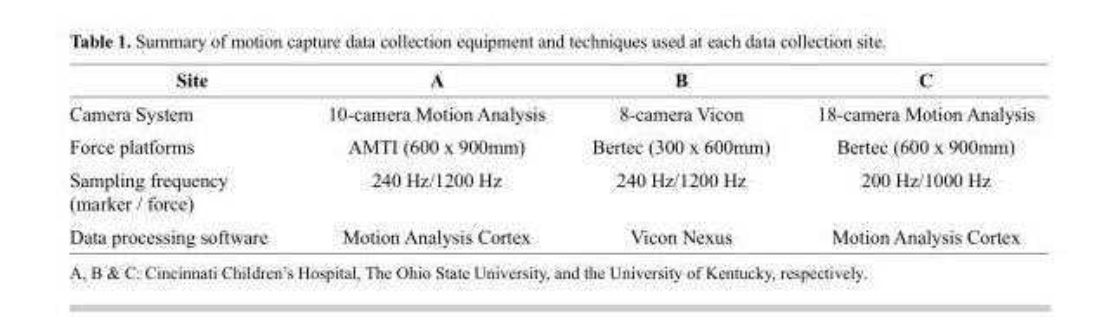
<table><thead><tr><td>Site</td><td>A</td><td>B</td><td>C</td></tr></thead><tbody><tr><td>Camera System</td><td>10-camera Motion Analysis</td><td>8-camera Vicon</td><td>18-camera Motion Analysis</td></tr><tr><td>Force platforms</td><td>AMTI (600 x 900mm)</td><td>Bertec (300 x 600mm)</td><td>Bertec (600 x 900mm)</td></tr><tr><td>Sampling frequency (marker / force)</td><td>240 Hz/1200 Hz</td><td>240 Hz/1200 Hz</td><td>200 Hz/1000 Hz</td></tr><tr><td>Data processing software</td><td>Motion Analysis Cortex</td><td>Vicon Nexus</td><td>Motion Analysis Cortex</td></tr></tbody></table>